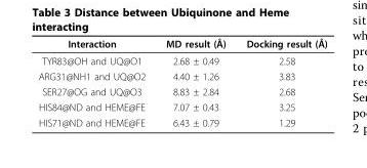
<table><thead><tr><td>Interaction</td><td>MD result (Å)</td><td>Docking result (Å)</td></tr></thead><tbody><tr><td>TYR83@OH and UQ@O1</td><td>2.68 ± 0.49</td><td>2.58</td></tr><tr><td>ARG31@NH1 and UQ@O2</td><td>4.40 ± 1.26</td><td>3.83</td></tr><tr><td>SER27@OG and UQ@O3</td><td>8.83 ± 2.84</td><td>2.68</td></tr><tr><td>HIS84@ND and HEME@FE</td><td>7.07 ± 0.43</td><td>3.25</td></tr><tr><td>HIS71@ND and HEME@FE</td><td>6.43 ± 0.79</td><td>1.29</td></tr></tbody></table>